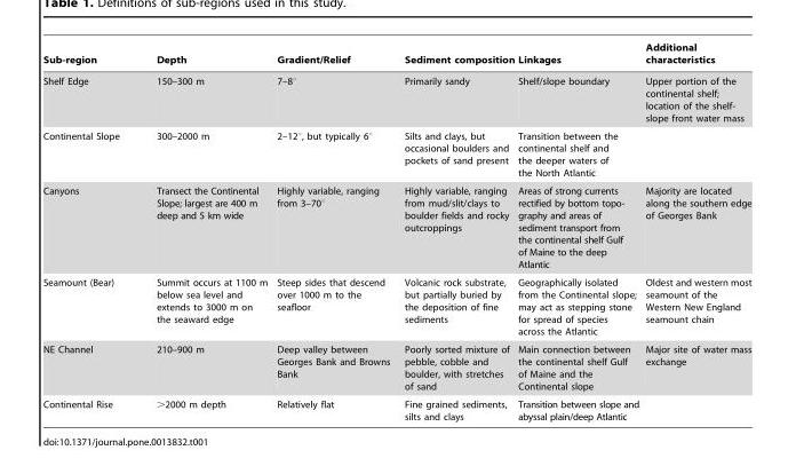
<table><thead><tr><td>Sub-region</td><td>Depth</td><td>Gradient/Relief</td><td>Sediment composition</td><td>Linkages</td><td>Additional characteristics</td></tr></thead><tbody><tr><td>Shelf Edge</td><td>150–300 m</td><td>7–8°</td><td>Primarily sandy</td><td>Shelf/slope boundary</td><td>Upper portion of the continental shelf; location of the shelf- slope front water mass</td></tr><tr><td>Continental Slope</td><td>300–2000 m</td><td>2–12°, but typically 6°</td><td>Silts and clays, but occasional boulders and pockets of sand present</td><td>Transition between the continental shelf and the deeper waters of the North Atlantic</td><td></td></tr><tr><td>Canyons</td><td>Transect the Continental Slope; largest are 400 m deep and 5 km wide</td><td>Highly variable, ranging from 3–70°</td><td>Highly variable, ranging from mud/slit/clays to boulder fields and rocky outcroppings</td><td>Areas of strong currents rectified by bottom topo- graphy and areas of sediment transport from the continental shelf Gulf of Maine to the deep Atlantic</td><td>Majority are located along the southern edge of Georges Bank</td></tr><tr><td>Seamount (Bear)</td><td>Summit occurs at 1100 m below sea level and extends to 3000 m on the seaward edge</td><td>Steep sides that descend over 1000 m to the seafloor</td><td>Volcanic rock substrate, but partially buried by the deposition of fine sediments</td><td>Geographically isolated from the Continental slope; may act as stepping stone for spread of species across the Atlantic</td><td>Oldest and western most seamount of the Western New England seamount chain</td></tr><tr><td>NE Channel</td><td>210–900 m</td><td>Deep valley between Georges Bank and Browns Bank</td><td>Poorly sorted mixture of pebble, cobble and boulder, with stretches of sand</td><td>Main connection between the continental shelf Gulf of Maine and the Continental slope</td><td>Major site of water mass exchange</td></tr><tr><td>Continental Rise</td><td>&gt;2000 m depth</td><td>Relatively flat</td><td>Fine grained sediments, silts and clays</td><td>Transition between slope and abyssal plain/deep Atlantic</td><td></td></tr></tbody></table>